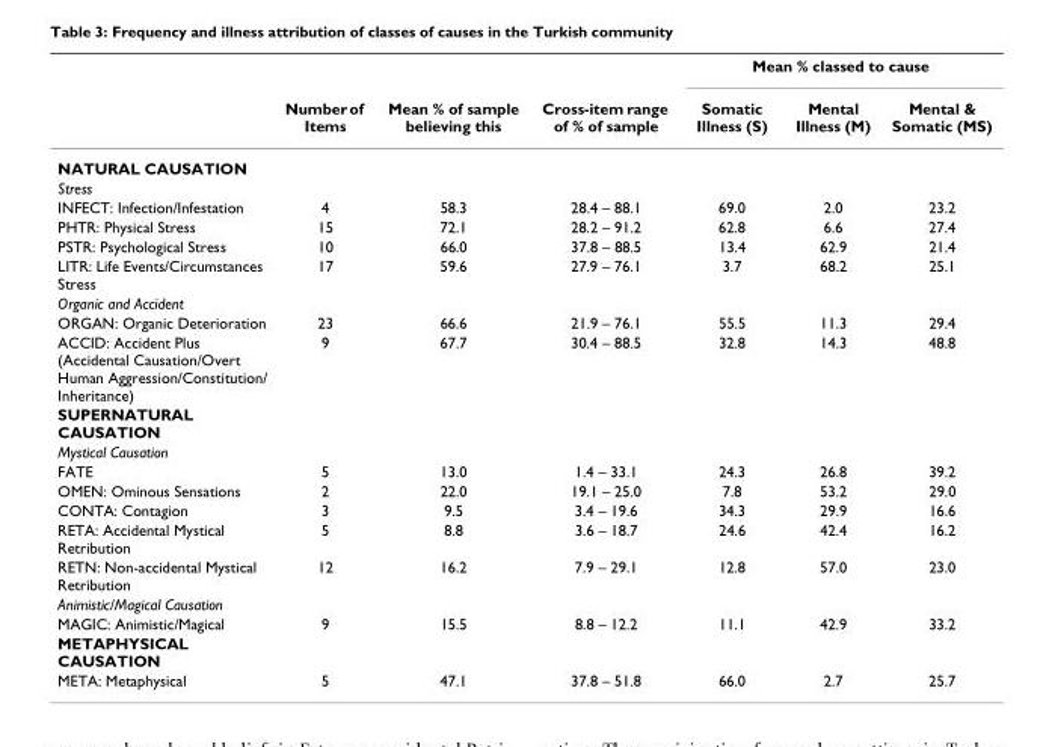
<table><thead><tr><td rowspan="2"></td><td rowspan="2">Number of Items</td><td rowspan="2">Mean % of sample believing this</td><td rowspan="2">Cross-item range of % of sample</td><td colspan="3">Mean % classed to cause</td></tr><tr><td>Somatic Illness (S)</td><td>Mental Illness (M)</td><td>Mental &amp; Somatic (MS)</td></tr></thead><tbody><tr><td colspan="7">NATURAL CAUSATION</td></tr><tr><td colspan="7">Stress</td></tr><tr><td>INFECT: Infection/Infestation</td><td>4</td><td>58.3</td><td>28.4 – 88.1</td><td>69.0</td><td>2.0</td><td>23.2</td></tr><tr><td>PHTR: Physical Stress</td><td>15</td><td>72.1</td><td>28.2 – 91.2</td><td>62.8</td><td>6.6</td><td>27.4</td></tr><tr><td>PSTR: Psychological Stress</td><td>10</td><td>66.0</td><td>37.8 – 88.5</td><td>13.4</td><td>62.9</td><td>21.4</td></tr><tr><td>LITR: Life Events/Circumstances Stress</td><td>17</td><td>59.6</td><td>27.9 – 76.1</td><td>3.7</td><td>68.2</td><td>25.1</td></tr><tr><td colspan="7">Organic and Accident</td></tr><tr><td>ORGAN: Organic Deterioration</td><td>23</td><td>66.6</td><td>21.9 – 76.1</td><td>55.5</td><td>11.3</td><td>29.4</td></tr><tr><td>ACCID: Accident Plus (Accidental Causation/Overt Human Aggression/Constitution/ Inheritance)</td><td>9</td><td>67.7</td><td>30.4 – 88.5</td><td>32.8</td><td>14.3</td><td>48.8</td></tr><tr><td colspan="7">SUPERNATURAL CAUSATION</td></tr><tr><td colspan="7">Mystical Causation</td></tr><tr><td>FATE</td><td>5</td><td>13.0</td><td>1.4 – 33.1</td><td>24.3</td><td>26.8</td><td>39.2</td></tr><tr><td>OMEN: Ominous Sensations</td><td>2</td><td>22.0</td><td>19.1 – 25.0</td><td>7.8</td><td>53.2</td><td>29.0</td></tr><tr><td>CONTA: Contagion</td><td>3</td><td>9.5</td><td>3.4 – 19.6</td><td>34.3</td><td>29.9</td><td>16.6</td></tr><tr><td>RETA: Accidental Mystical Retribution</td><td>5</td><td>8.8</td><td>3.6 – 18.7</td><td>24.6</td><td>42.4</td><td>16.2</td></tr><tr><td>RETN: Non-accidental Mystical Retribution</td><td>12</td><td>16.2</td><td>7.9 – 29.1</td><td>12.8</td><td>57.0</td><td>23.0</td></tr><tr><td colspan="7">Animistic/Magical Causation</td></tr><tr><td>MAGIC: Animistic/Magical</td><td>9</td><td>15.5</td><td>8.8 – 12.2</td><td>11.1</td><td>42.9</td><td>33.2</td></tr><tr><td colspan="7">METAPHYSICAL CAUSATION</td></tr><tr><td>META: Metaphysical</td><td>5</td><td>47.1</td><td>37.8 – 51.8</td><td>66.0</td><td>2.7</td><td>25.7</td></tr></tbody></table>